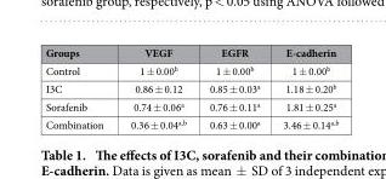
<table><thead><tr><td>Groups</td><td>VEGF</td><td>EGFR</td><td>E-cadherin</td></tr></thead><tbody><tr><td>Control</td><td>1 ± 0.00<sup>b</sup></td><td>1 ± 0.00<sup>b</sup></td><td>1 ± 0.00<sup>b</sup></td></tr><tr><td>I3C</td><td>0.86 ± 0.12</td><td>0.85 ± 0.03<sup>a</sup></td><td>1.18 ± 0.20<sup>b</sup></td></tr><tr><td>Sorafenib</td><td>0.74 ± 0.06<sup>a</sup></td><td>0.76 ± 0.11<sup>a</sup></td><td>1.81 ± 0.25<sup>a</sup></td></tr><tr><td>Combination</td><td>0.36 ± 0.04a,b</td><td>0.63 ± 0.00<sup>a</sup></td><td>3.46 ± 0.14<sup>a,b</sup></td></tr></tbody></table>